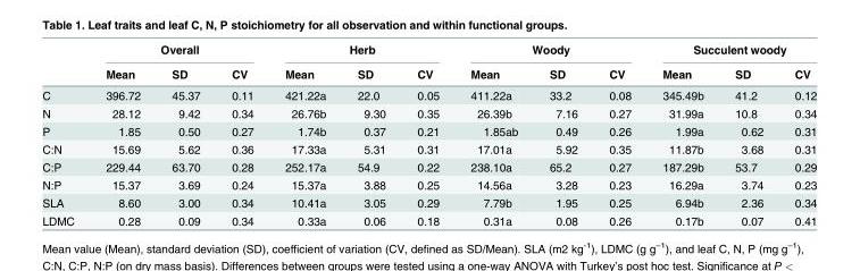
<table><thead><tr><td rowspan="2"></td><td colspan="3">Overall</td><td colspan="3">Herb</td><td colspan="3">Woody</td><td colspan="3">Succulent woody</td></tr><tr><td>Mean</td><td>SD</td><td>CV</td><td>Mean</td><td>SD</td><td>CV</td><td>Mean</td><td>SD</td><td>CV</td><td>Mean</td><td>SD</td><td>CV</td></tr></thead><tbody><tr><td>C</td><td>396.72</td><td>45.37</td><td>0.11</td><td>421.22a</td><td>22.0</td><td>0.05</td><td>411.22a</td><td>33.2</td><td>0.08</td><td>345.49b</td><td>41.2</td><td>0.12</td></tr><tr><td>N</td><td>28.12</td><td>9.42</td><td>0.34</td><td>26.76b</td><td>9.30</td><td>0.35</td><td>26.39b</td><td>7.16</td><td>0.27</td><td>31.99a</td><td>10.8</td><td>0.34</td></tr><tr><td>P</td><td>1.85</td><td>0.50</td><td>0.27</td><td>1.74b</td><td>0.37</td><td>0.21</td><td>1.85ab</td><td>0.49</td><td>0.26</td><td>1.99a</td><td>0.62</td><td>0.31</td></tr><tr><td>C:N</td><td>15.69</td><td>5.62</td><td>0.36</td><td>17.33a</td><td>5.31</td><td>0.31</td><td>17.01a</td><td>5.92</td><td>0.35</td><td>11.87b</td><td>3.68</td><td>0.31</td></tr><tr><td>C:P</td><td>229.44</td><td>63.70</td><td>0.28</td><td>252.17a</td><td>54.9</td><td>0.22</td><td>238.10a</td><td>65.2</td><td>0.27</td><td>187.29b</td><td>53.7</td><td>0.29</td></tr><tr><td>N:P</td><td>15.37</td><td>3.69</td><td>0.24</td><td>15.37a</td><td>3.88</td><td>0.25</td><td>14.56a</td><td>3.28</td><td>0.23</td><td>16.29a</td><td>3.74</td><td>0.23</td></tr><tr><td>SLA</td><td>8.60</td><td>3.00</td><td>0.34</td><td>10.41a</td><td>3.05</td><td>0.29</td><td>7.79b</td><td>1.95</td><td>0.25</td><td>6.94b</td><td>2.36</td><td>0.34</td></tr><tr><td>LDMC</td><td>0.28</td><td>0.09</td><td>0.34</td><td>0.33a</td><td>0.06</td><td>0.18</td><td>0.31a</td><td>0.08</td><td>0.26</td><td>0.17b</td><td>0.07</td><td>0.41</td></tr></tbody></table>